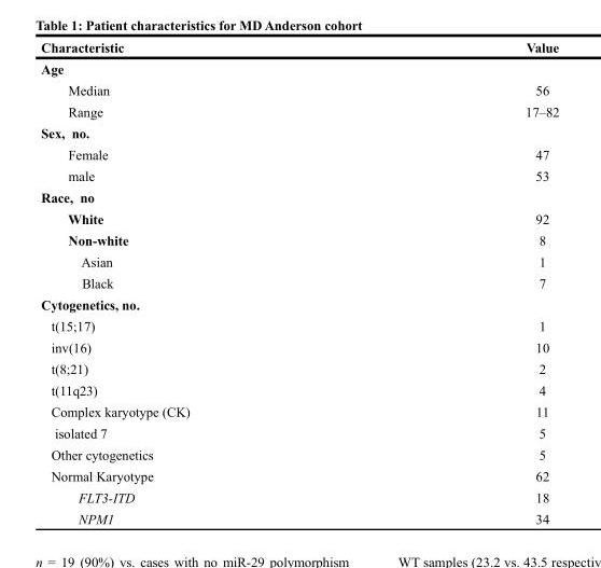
<table><thead><tr><td>Characteristic</td><td>Value</td></tr></thead><tbody><tr><td colspan="2">Age</td></tr><tr><td>Median</td><td>56</td></tr><tr><td>Range</td><td>17–82</td></tr><tr><td colspan="2">Sex, no.</td></tr><tr><td>Female</td><td>47</td></tr><tr><td>male</td><td>53</td></tr><tr><td colspan="2">Race, no</td></tr><tr><td>White</td><td>92</td></tr><tr><td>Non-white</td><td>8</td></tr><tr><td>Asian</td><td>1</td></tr><tr><td>Black</td><td>7</td></tr><tr><td colspan="2">Cytogenetics, no.</td></tr><tr><td>t(15;17)</td><td>1</td></tr><tr><td>inv(16)</td><td>10</td></tr><tr><td>t(8;21)</td><td>2</td></tr><tr><td>t(11q23)</td><td>4</td></tr><tr><td>Complex karyotype (CK)</td><td>11</td></tr><tr><td>isolated 7</td><td>5</td></tr><tr><td>Other cytogenetics</td><td>5</td></tr><tr><td>Normal Karyotype</td><td>62</td></tr><tr><td>FLT3-ITD</td><td>18</td></tr><tr><td>NPM1</td><td>34</td></tr></tbody></table>